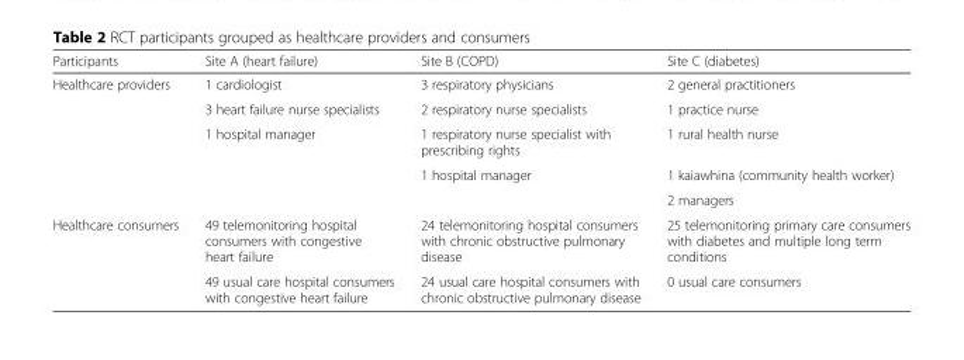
<table><thead><tr><td>Participants</td><td>Site A (heart failure)</td><td>Site B (COPD)</td><td>Site C (diabetes)</td></tr></thead><tbody><tr><td rowspan="5">Healthcare providers</td><td>1 cardiologist</td><td>3 respiratory physicians</td><td>2 general practitioners</td></tr><tr><td>3 heart failure nurse specialists</td><td>2 respiratory nurse specialists</td><td>1 practice nurse</td></tr><tr><td rowspan="3">1 hospital manager</td><td>1 respiratory nurse specialist with prescribing rights</td><td>1 rural health nurse</td></tr><tr><td rowspan="2">1 hospital manager</td><td>1 kaiawhina (community health worker)</td></tr><tr><td>2 managers</td></tr><tr><td rowspan="2">Healthcare consumers</td><td>49 telemonitoring hospital consumers with congestive heart failure</td><td>24 telemonitoring hospital consumers with chronic obstructive pulmonary disease</td><td>25 telemonitoring primary care consumers with diabetes and multiple long term conditions</td></tr><tr><td>49 usual care hospital consumers with congestive heart failure</td><td>24 usual care hospital consumers with chronic obstructive pulmonary disease</td><td>0 usual care consumers</td></tr></tbody></table>